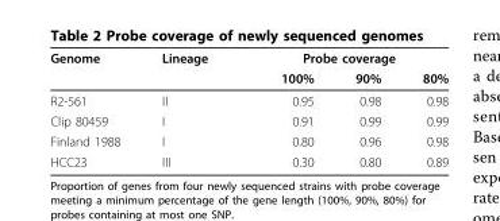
<table><thead><tr><td rowspan="2">Genome</td><td rowspan="2">Lineage</td><td colspan="3">Probe coverage</td></tr><tr><td>100%</td><td>90%</td><td>80%</td></tr></thead><tbody><tr><td>R2-561</td><td>II</td><td>0.95</td><td>0.98</td><td>0.98</td></tr><tr><td>Clip 80459</td><td>I</td><td>0.91</td><td>0.99</td><td>0.99</td></tr><tr><td>Finland 1988</td><td>I</td><td>0.80</td><td>0.96</td><td>0.98</td></tr><tr><td>HCC23</td><td>III</td><td>0.30</td><td>0.80</td><td>0.89</td></tr></tbody></table>